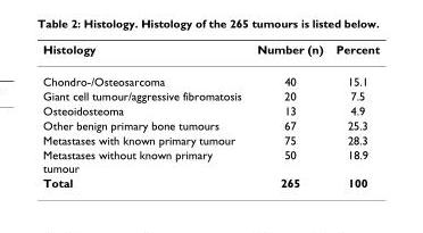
<table><thead><tr><td>Histology</td><td>Number (n)</td><td>Percent</td></tr></thead><tbody><tr><td>Chondro-/Osteosarcoma</td><td>40</td><td>15.1</td></tr><tr><td>Giant cell tumour/aggressive fibromatosis</td><td>20</td><td>7.5</td></tr><tr><td>Osteoidosteoma</td><td>13</td><td>4.9</td></tr><tr><td>Other benign primary bone tumours</td><td>67</td><td>25.3</td></tr><tr><td>Metastases with known primary tumour</td><td>75</td><td>28.3</td></tr><tr><td>Metastases without known primary tumour</td><td>50</td><td>18.9</td></tr><tr><td>Total</td><td>265</td><td>100</td></tr></tbody></table>